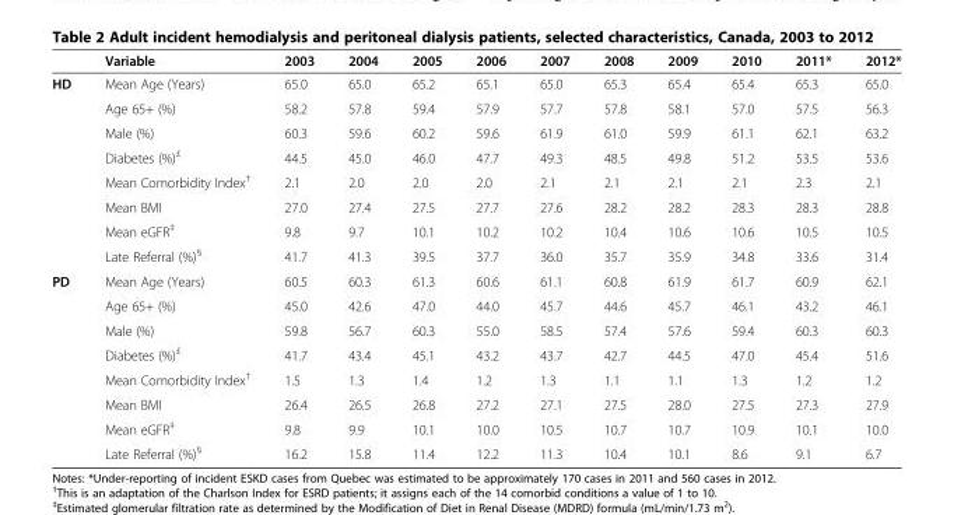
<table><thead><tr><td></td><td>Variable</td><td>2003</td><td>2004</td><td>2005</td><td>2006</td><td>2007</td><td>2008</td><td>2009</td><td>2010</td><td>2011*</td><td>2012*</td></tr></thead><tbody><tr><td rowspan="8">HD</td><td>Mean Age (Years)</td><td>65.0</td><td>65.0</td><td>65.2</td><td>65.1</td><td>65.0</td><td>65.3</td><td>65.4</td><td>65.4</td><td>65.3</td><td>65.0</td></tr><tr><td>Age 65+ (%)</td><td>58.2</td><td>57.8</td><td>59.4</td><td>57.9</td><td>57.7</td><td>57.8</td><td>58.1</td><td>57.0</td><td>57.5</td><td>56.3</td></tr><tr><td>Male (%)</td><td>60.3</td><td>59.6</td><td>60.2</td><td>59.6</td><td>61.9</td><td>61.0</td><td>59.9</td><td>61.1</td><td>62.1</td><td>63.2</td></tr><tr><td>Diabetes (%)<sup>£</sup></td><td>44.5</td><td>45.0</td><td>46.0</td><td>47.7</td><td>49.3</td><td>48.5</td><td>49.8</td><td>51.2</td><td>53.5</td><td>53.6</td></tr><tr><td>Mean Comorbidity Index<sup>†</sup></td><td>2.1</td><td>2.0</td><td>2.0</td><td>2.0</td><td>2.1</td><td>2.1</td><td>2.1</td><td>2.1</td><td>2.3</td><td>2.1</td></tr><tr><td>Mean BMI</td><td>27.0</td><td>27.4</td><td>27.5</td><td>27.7</td><td>27.6</td><td>28.2</td><td>28.2</td><td>28.3</td><td>28.3</td><td>28.8</td></tr><tr><td>Mean eGFR<sup>‡</sup></td><td>9.8</td><td>9.7</td><td>10.1</td><td>10.2</td><td>10.2</td><td>10.4</td><td>10.6</td><td>10.6</td><td>10.5</td><td>10.5</td></tr><tr><td>Late Referral (%)<sup>§</sup></td><td>41.7</td><td>41.3</td><td>39.5</td><td>37.7</td><td>36.0</td><td>35.7</td><td>35.9</td><td>34.8</td><td>33.6</td><td>31.4</td></tr><tr><td rowspan="8">PD</td><td>Mean Age (Years)</td><td>60.5</td><td>60.3</td><td>61.3</td><td>60.6</td><td>61.1</td><td>60.8</td><td>61.9</td><td>61.7</td><td>60.9</td><td>62.1</td></tr><tr><td>Age 65+ (%)</td><td>45.0</td><td>42.6</td><td>47.0</td><td>44.0</td><td>45.7</td><td>44.6</td><td>45.7</td><td>46.1</td><td>43.2</td><td>46.1</td></tr><tr><td>Male (%)</td><td>59.8</td><td>56.7</td><td>60.3</td><td>55.0</td><td>58.5</td><td>57.4</td><td>57.6</td><td>59.4</td><td>60.3</td><td>60.3</td></tr><tr><td>Diabetes (%)<sup>£</sup></td><td>41.7</td><td>43.4</td><td>45.1</td><td>43.2</td><td>43.7</td><td>42.7</td><td>44.5</td><td>47.0</td><td>45.4</td><td>51.6</td></tr><tr><td>Mean Comorbidity Index<sup>†</sup></td><td>1.5</td><td>1.3</td><td>1.4</td><td>1.2</td><td>1.3</td><td>1.1</td><td>1.1</td><td>1.3</td><td>1.2</td><td>1.2</td></tr><tr><td>Mean BMI</td><td>26.4</td><td>26.5</td><td>26.8</td><td>27.2</td><td>27.1</td><td>27.5</td><td>28.0</td><td>27.5</td><td>27.3</td><td>27.9</td></tr><tr><td>Mean eGFR<sup>‡</sup></td><td>9.8</td><td>9.9</td><td>10.1</td><td>10.0</td><td>10.5</td><td>10.7</td><td>10.7</td><td>10.9</td><td>10.1</td><td>10.0</td></tr><tr><td>Late Referral (%)<sup>§</sup></td><td>16.2</td><td>15.8</td><td>11.4</td><td>12.2</td><td>11.3</td><td>10.4</td><td>10.1</td><td>8.6</td><td>9.1</td><td>6.7</td></tr></tbody></table>